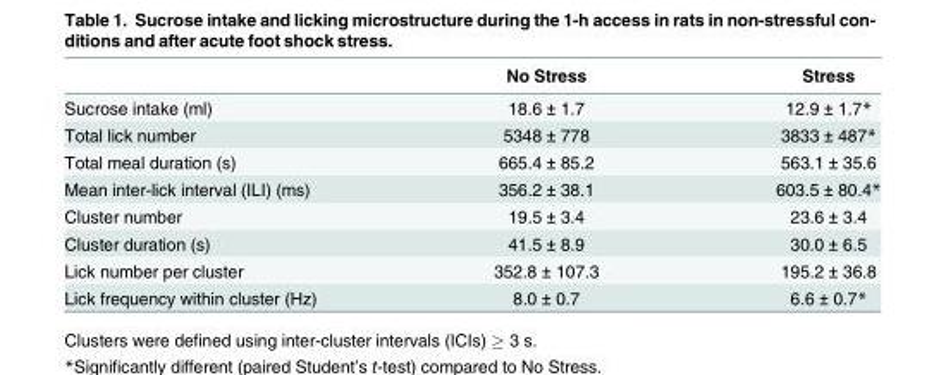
<table><thead><tr><td></td><td>No Stress</td><td>Stress</td></tr></thead><tbody><tr><td>Sucrose intake (ml)</td><td>18.6 ± 1.7</td><td>12.9 ± 1.7*</td></tr><tr><td>Total lick number</td><td>5348 ± 778</td><td>3833 ± 487*</td></tr><tr><td>Total meal duration (s)</td><td>665.4 ± 85.2</td><td>563.1 ± 35.6</td></tr><tr><td>Mean inter-lick interval (ILI) (ms)</td><td>356.2 ± 38.1</td><td>603.5 ± 80.4*</td></tr><tr><td>Cluster number</td><td>19.5 ± 3.4</td><td>23.6 ± 3.4</td></tr><tr><td>Cluster duration (s)</td><td>41.5 ± 8.9</td><td>30.0 ± 6.5</td></tr><tr><td>Lick number per cluster</td><td>352.8 ± 107.3</td><td>195.2 ± 36.8</td></tr><tr><td>Lick frequency within cluster (Hz)</td><td>8.0 ± 0.7</td><td>6.6 ± 0.7*</td></tr></tbody></table>